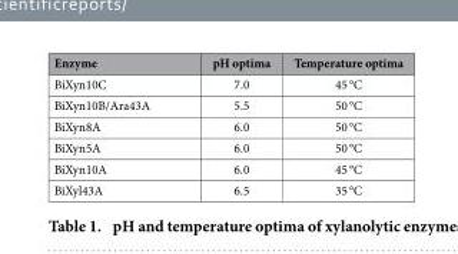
<table><thead><tr><td>Enzyme</td><td>pH optima</td><td>Temperature optima</td></tr></thead><tbody><tr><td>BiXyn10C</td><td>7.0</td><td>45 °C</td></tr><tr><td>BiXyn10B/Ara43A</td><td>5.5</td><td>50 °C</td></tr><tr><td>BiXyn8A</td><td>6.0</td><td>50 °C</td></tr><tr><td>BiXyn5A</td><td>6.0</td><td>50 °C</td></tr><tr><td>BiXyn10A</td><td>6.0</td><td>45 °C</td></tr><tr><td>BiXyl43A</td><td>6.5</td><td>35 °C</td></tr></tbody></table>